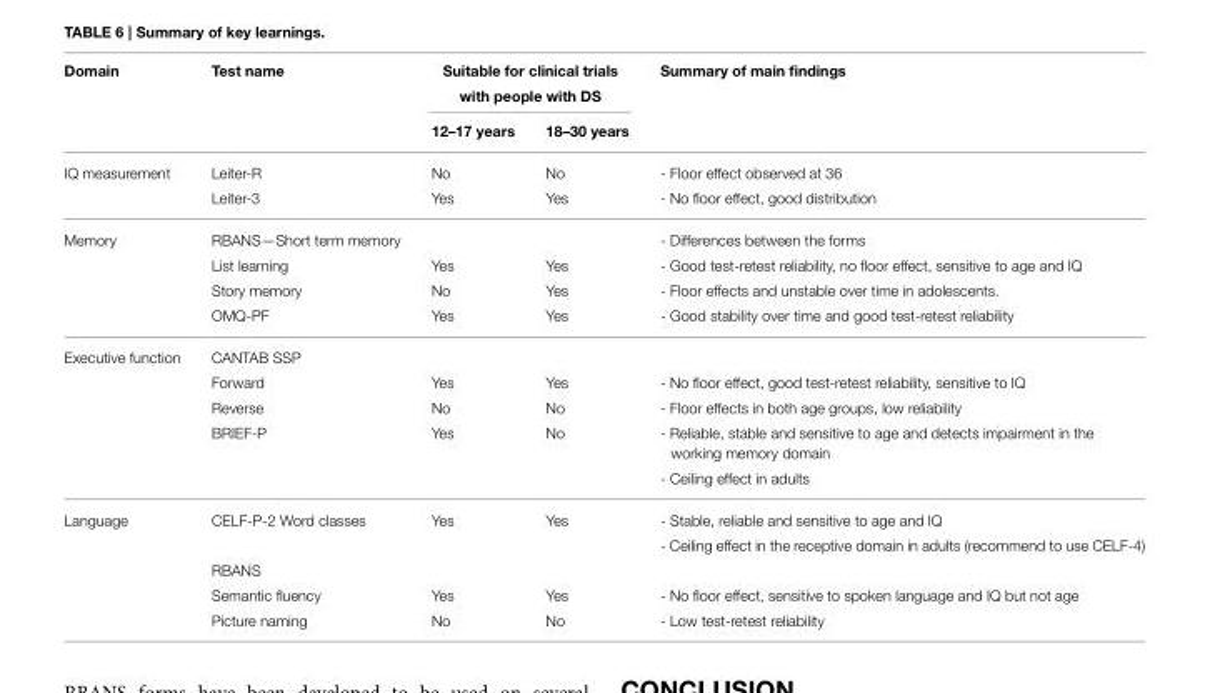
<table><thead><tr><td rowspan="2">Domain</td><td rowspan="2">Test name</td><td colspan="2">Suitable for clinical trials with people with DS</td><td rowspan="2">Summary of main findings</td></tr><tr><td>12–17 years</td><td>18–30 years</td></tr></thead><tbody><tr><td rowspan="2">IQ measurement</td><td>Leiter-R</td><td>No</td><td>No</td><td>- Floor effect observed at 36</td></tr><tr><td>Leiter-3</td><td>Yes</td><td>Yes</td><td>- No floor effect, good distribution</td></tr><tr><td rowspan="4">Memory</td><td>RBANS—Short term memory</td><td></td><td></td><td>- Differences between the forms</td></tr><tr><td>List learning</td><td>Yes</td><td>Yes</td><td>- Good test-retest reliability, no floor effect, sensitive to age and IQ</td></tr><tr><td>Story memory</td><td>No</td><td>Yes</td><td>- Floor effects and unstable over time in adolescents.</td></tr><tr><td>OMQ-PF</td><td>Yes</td><td>Yes</td><td>- Good stability over time and good test-retest reliability</td></tr><tr><td rowspan="5">Executive function</td><td>CANTAB SSP</td><td></td><td></td><td></td></tr><tr><td>Forward</td><td>Yes</td><td>Yes</td><td>- No floor effect, good test-retest reliability, sensitive to IQ</td></tr><tr><td>Reverse</td><td>No</td><td>No</td><td>- Floor effects in both age groups, low reliability</td></tr><tr><td>BRIEF-P</td><td>Yes</td><td>No</td><td>- Reliable, stable and sensitive to age and detects impairment in the working memory domain</td></tr><tr><td></td><td></td><td></td><td>- Ceiling effect in adults</td></tr><tr><td rowspan="5">Language</td><td>CELF-P-2 Word classes</td><td>Yes</td><td>Yes</td><td>- Stable, reliable and sensitive to age and IQ</td></tr><tr><td></td><td></td><td></td><td>- Ceiling effect in the receptive domain in adults (recommend to use CELF-4)</td></tr><tr><td>RBANS</td><td></td><td></td><td></td></tr><tr><td>Semantic fluency</td><td>Yes</td><td>Yes</td><td>- No floor effect, sensitive to spoken language and IQ but not age</td></tr><tr><td>Picture naming</td><td>No</td><td>No</td><td>- Low test-retest reliability</td></tr></tbody></table>